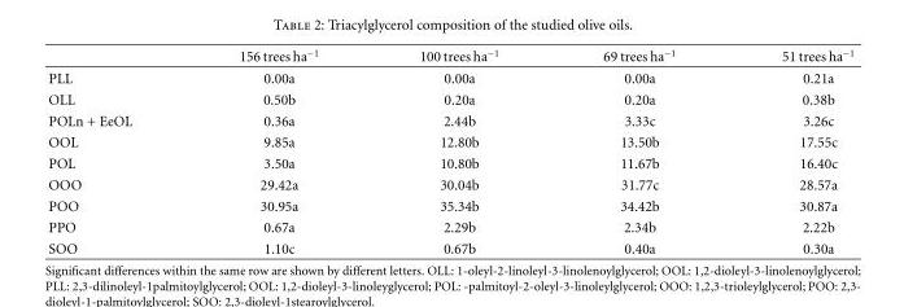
<table><thead><tr><td></td><td>156 trees ha<sup>−1</sup></td><td>100 trees ha<sup>−1</sup></td><td>69 trees ha<sup>−1</sup></td><td>51 trees ha<sup>−1</sup></td></tr></thead><tbody><tr><td>PLL</td><td>0.00a</td><td>0.00a</td><td>0.00a</td><td>0.21a</td></tr><tr><td>OLL</td><td>0.50b</td><td>0.20a</td><td>0.20a</td><td>0.38b</td></tr><tr><td>POLn + EeOL</td><td>0.36a</td><td>2.44b</td><td>3.33c</td><td>3.26c</td></tr><tr><td>OOL</td><td>9.85a</td><td>12.80b</td><td>13.50b</td><td>17.55c</td></tr><tr><td>POL</td><td>3.50a</td><td>10.80b</td><td>11.67b</td><td>16.40c</td></tr><tr><td>OOO</td><td>29.42a</td><td>30.04b</td><td>31.77c</td><td>28.57a</td></tr><tr><td>POO</td><td>30.95a</td><td>35.34b</td><td>34.42b</td><td>30.87a</td></tr><tr><td>PPO</td><td>0.67a</td><td>2.29b</td><td>2.34b</td><td>2.22b</td></tr><tr><td>SOO</td><td>1.10c</td><td>0.67b</td><td>0.40a</td><td>0.30a</td></tr></tbody></table>